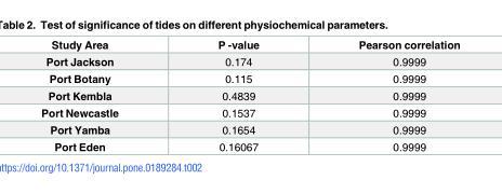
<table><thead><tr><td>Study Area</td><td>P -value</td><td>Pearson correlation</td></tr></thead><tbody><tr><td>Port Jackson</td><td>0.174</td><td>0.9999</td></tr><tr><td>Port Botany</td><td>0.115</td><td>0.9999</td></tr><tr><td>Port Kembla</td><td>0.4839</td><td>0.9999</td></tr><tr><td>Port Newcastle</td><td>0.1537</td><td>0.9999</td></tr><tr><td>Port Yamba</td><td>0.1654</td><td>0.9999</td></tr><tr><td>Port Eden</td><td>0.16067</td><td>0.9999</td></tr></tbody></table>